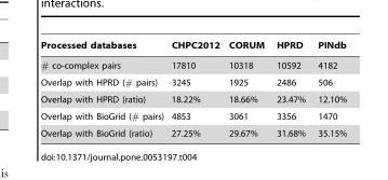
<table><thead><tr><td>Processed databases</td><td>CHPC2012</td><td>CORUM</td><td>HPRD</td><td>PINdb</td></tr></thead><tbody><tr><td># co-complex pairs</td><td>17810</td><td>10318</td><td>10592</td><td>4182</td></tr><tr><td>Overlap with HPRD (# pairs)</td><td>3245</td><td>1925</td><td>2486</td><td>506</td></tr><tr><td>Overlap with HPRD (ratio)</td><td>18.22%</td><td>18.66%</td><td>23.47%</td><td>12.10%</td></tr><tr><td>Overlap with BioGrid (# pairs)</td><td>4853</td><td>3061</td><td>3356</td><td>1470</td></tr><tr><td>Overlap with BioGrid (ratio)</td><td>27.25%</td><td>29.67%</td><td>31.68%</td><td>35.15%</td></tr></tbody></table>